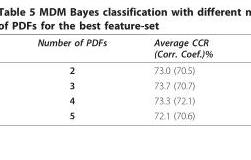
<table><thead><tr><td>Number of PDFs</td><td>Average CCR (Corr. Coef.)%</td></tr></thead><tbody><tr><td>2</td><td>73.0 (70.5)</td></tr><tr><td>3</td><td>73.7 (70.7)</td></tr><tr><td>4</td><td>73.3 (72.1)</td></tr><tr><td>5</td><td>72.1 (70.6)</td></tr></tbody></table>